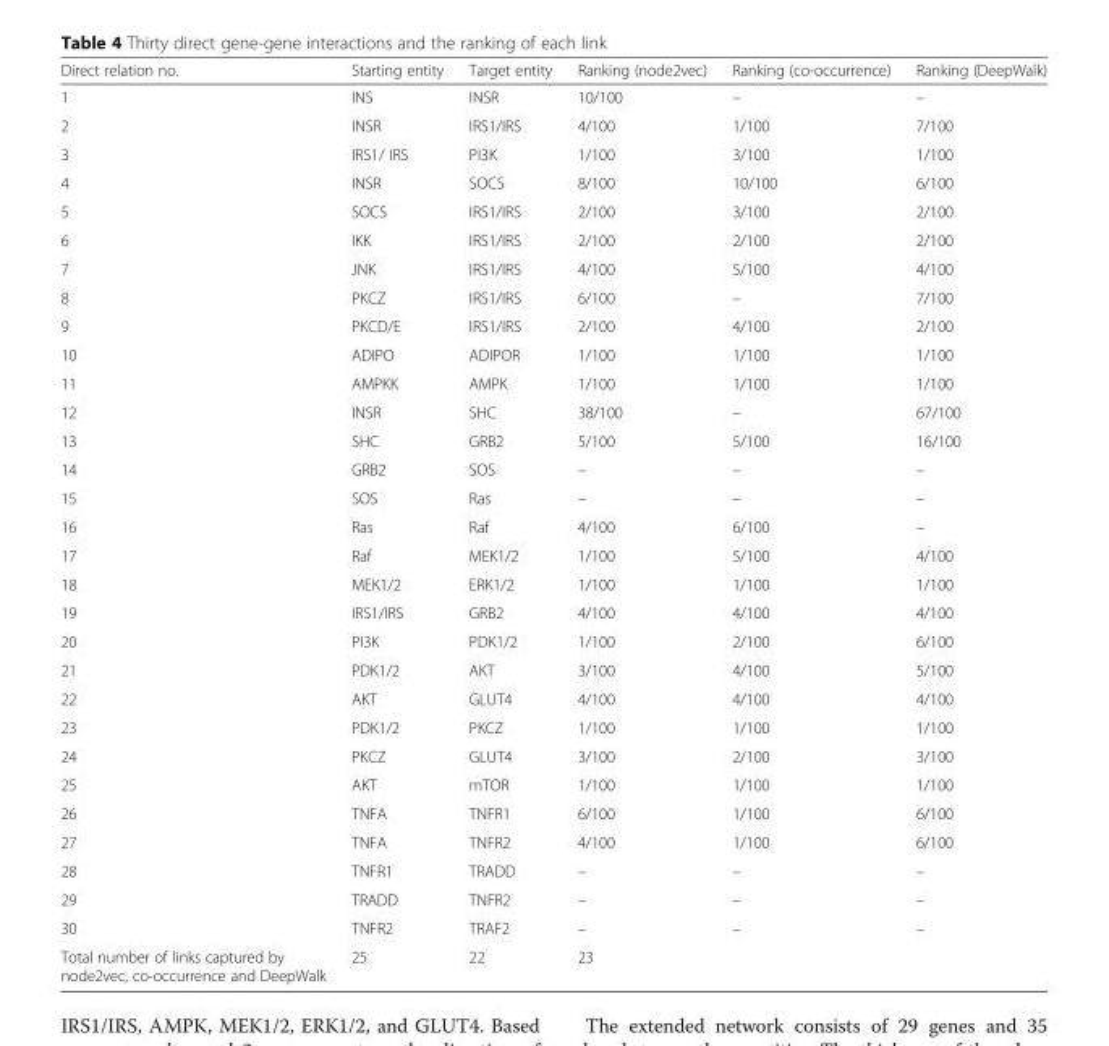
<table><thead><tr><td>Direct relation no.</td><td>Starting entity</td><td>Target entity</td><td>Ranking (node2vec)</td><td>Ranking (co-occurrence)</td><td>Ranking (DeepWalk)</td></tr></thead><tbody><tr><td>1</td><td>INS</td><td>INSR</td><td>10/100</td><td>–</td><td>–</td></tr><tr><td>2</td><td>INSR</td><td>IRS1/IRS</td><td>4/100</td><td>1/100</td><td>7/100</td></tr><tr><td>3</td><td>IRS1/ IRS</td><td>PI3K</td><td>1/100</td><td>3/100</td><td>1/100</td></tr><tr><td>4</td><td>INSR</td><td>SOCS</td><td>8/100</td><td>10/100</td><td>6/100</td></tr><tr><td>5</td><td>SOCS</td><td>IRS1/IRS</td><td>2/100</td><td>3/100</td><td>2/100</td></tr><tr><td>6</td><td>IKK</td><td>IRS1/IRS</td><td>2/100</td><td>2/100</td><td>2/100</td></tr><tr><td>7</td><td>JNK</td><td>IRS1/IRS</td><td>4/100</td><td>5/100</td><td>4/100</td></tr><tr><td>8</td><td>PKCZ</td><td>IRS1/IRS</td><td>6/100</td><td>–</td><td>7/100</td></tr><tr><td>9</td><td>PKCD/E</td><td>IRS1/IRS</td><td>2/100</td><td>4/100</td><td>2/100</td></tr><tr><td>10</td><td>ADIPO</td><td>ADIPOR</td><td>1/100</td><td>1/100</td><td>1/100</td></tr><tr><td>11</td><td>AMPKK</td><td>AMPK</td><td>1/100</td><td>1/100</td><td>1/100</td></tr><tr><td>12</td><td>INSR</td><td>SHC</td><td>38/100</td><td>–</td><td>67/100</td></tr><tr><td>13</td><td>SHC</td><td>GRB2</td><td>5/100</td><td>5/100</td><td>16/100</td></tr><tr><td>14</td><td>GRB2</td><td>SOS</td><td>–</td><td>–</td><td>–</td></tr><tr><td>15</td><td>SOS</td><td>Ras</td><td>–</td><td>–</td><td>–</td></tr><tr><td>16</td><td>Ras</td><td>Raf</td><td>4/100</td><td>6/100</td><td>–</td></tr><tr><td>17</td><td>Raf</td><td>MEK1/2</td><td>1/100</td><td>5/100</td><td>4/100</td></tr><tr><td>18</td><td>MEK1/2</td><td>ERK1/2</td><td>1/100</td><td>1/100</td><td>1/100</td></tr><tr><td>19</td><td>IRS1/IRS</td><td>GRB2</td><td>4/100</td><td>4/100</td><td>4/100</td></tr><tr><td>20</td><td>PI3K</td><td>PDK1/2</td><td>1/100</td><td>2/100</td><td>6/100</td></tr><tr><td>21</td><td>PDK1/2</td><td>AKT</td><td>3/100</td><td>4/100</td><td>5/100</td></tr><tr><td>22</td><td>AKT</td><td>GLUT4</td><td>4/100</td><td>4/100</td><td>4/100</td></tr><tr><td>23</td><td>PDK1/2</td><td>PKCZ</td><td>1/100</td><td>1/100</td><td>1/100</td></tr><tr><td>24</td><td>PKCZ</td><td>GLUT4</td><td>3/100</td><td>2/100</td><td>3/100</td></tr><tr><td>25</td><td>AKT</td><td>mTOR</td><td>1/100</td><td>1/100</td><td>1/100</td></tr><tr><td>26</td><td>TNFA</td><td>TNFR1</td><td>6/100</td><td>1/100</td><td>6/100</td></tr><tr><td>27</td><td>TNFA</td><td>TNFR2</td><td>4/100</td><td>1/100</td><td>6/100</td></tr><tr><td>28</td><td>TNFR1</td><td>TRADD</td><td>–</td><td>–</td><td>–</td></tr><tr><td>29</td><td>TRADD</td><td>TNFR2</td><td>–</td><td>–</td><td>–</td></tr><tr><td>30</td><td>TNFR2</td><td>TRAF2</td><td>–</td><td>–</td><td>–</td></tr><tr><td>Total number of links captured by node2vec, co-occurrence and DeepWalk</td><td>25</td><td>22</td><td>23</td><td></td><td></td></tr></tbody></table>